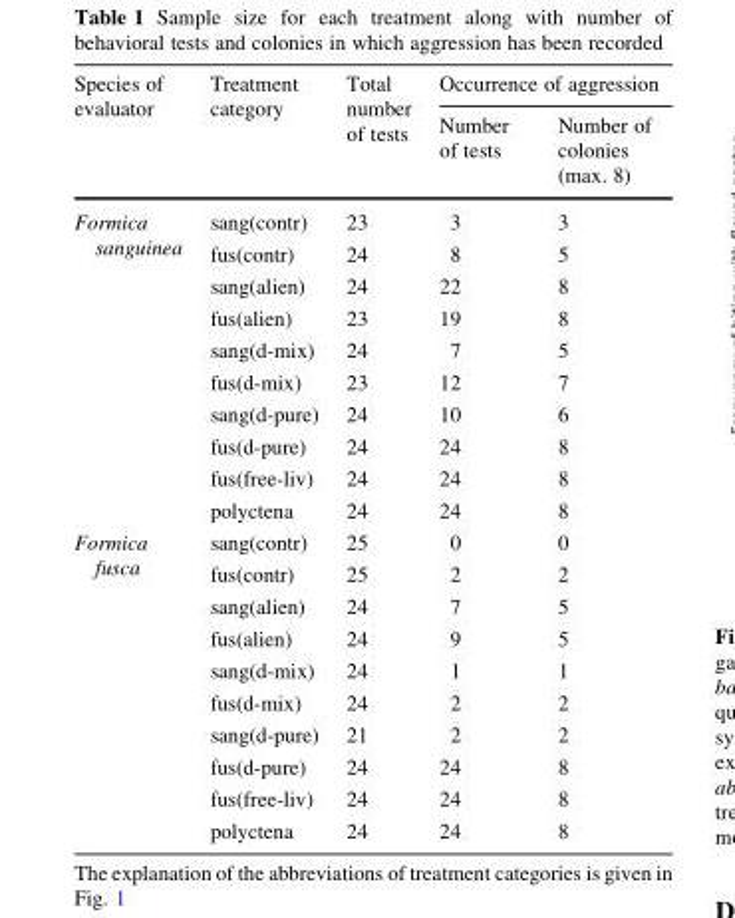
<table><thead><tr><td rowspan="2">Species of evaluator</td><td rowspan="2">Treatment category</td><td rowspan="2">Total number of tests</td><td colspan="2">Occurrence of aggression</td></tr><tr><td>Number of tests</td><td>Number of colonies (max. 8)</td></tr></thead><tbody><tr><td rowspan="10">Formica sanguinea</td><td>sang(contr)</td><td>23</td><td>3</td><td>3</td></tr><tr><td>fus(contr)</td><td>24</td><td>8</td><td>5</td></tr><tr><td>sang(alien)</td><td>24</td><td>22</td><td>8</td></tr><tr><td>fus(alien)</td><td>23</td><td>19</td><td>8</td></tr><tr><td>sang(d-mix)</td><td>24</td><td>7</td><td>5</td></tr><tr><td>fus(d-mix)</td><td>23</td><td>12</td><td>7</td></tr><tr><td>sang(d-pure)</td><td>24</td><td>10</td><td>6</td></tr><tr><td>fus(d-pure)</td><td>24</td><td>24</td><td>8</td></tr><tr><td>fus(free-liv)</td><td>24</td><td>24</td><td>8</td></tr><tr><td>polyctena</td><td>24</td><td>24</td><td>8</td></tr><tr><td rowspan="10">Formica fusca</td><td>sang(contr)</td><td>25</td><td>0</td><td>0</td></tr><tr><td>fus(contr)</td><td>25</td><td>2</td><td>2</td></tr><tr><td>sang(alien)</td><td>24</td><td>7</td><td>5</td></tr><tr><td>fus(alien)</td><td>24</td><td>9</td><td>5</td></tr><tr><td>sang(d-mix)</td><td>24</td><td>1</td><td>1</td></tr><tr><td>fus(d-mix)</td><td>24</td><td>2</td><td>2</td></tr><tr><td>sang(d-pure)</td><td>21</td><td>2</td><td>2</td></tr><tr><td>fus(d-pure)</td><td>24</td><td>24</td><td>8</td></tr><tr><td>fus(free-liv)</td><td>24</td><td>24</td><td>8</td></tr><tr><td>polyctena</td><td>24</td><td>24</td><td>8</td></tr></tbody></table>